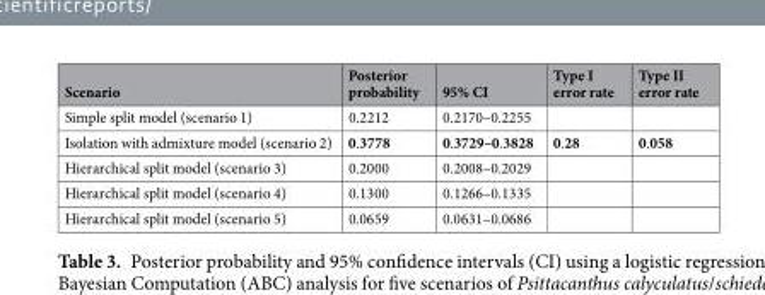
<table><thead><tr><td>Scenario</td><td>Posterior probability</td><td>95% CI</td><td>Type I error rate</td><td>Type II error rate</td></tr></thead><tbody><tr><td>Simple split model (scenario 1)</td><td>0.2212</td><td>0.2170–0.2255</td><td></td><td></td></tr><tr><td>Isolation with admixture model (scenario 2)</td><td>0.3778</td><td>0.3729–0.3828</td><td>0.28</td><td>0.058</td></tr><tr><td>Hierarchical split model (scenario 3)</td><td>0.2000</td><td>0.2008–0.2029</td><td></td><td></td></tr><tr><td>Hierarchical split model (scenario 4)</td><td>0.1300</td><td>0.1266–0.1335</td><td></td><td></td></tr><tr><td>Hierarchical split model (scenario 5)</td><td>0.0659</td><td>0.0631–0.0686</td><td></td><td></td></tr></tbody></table>